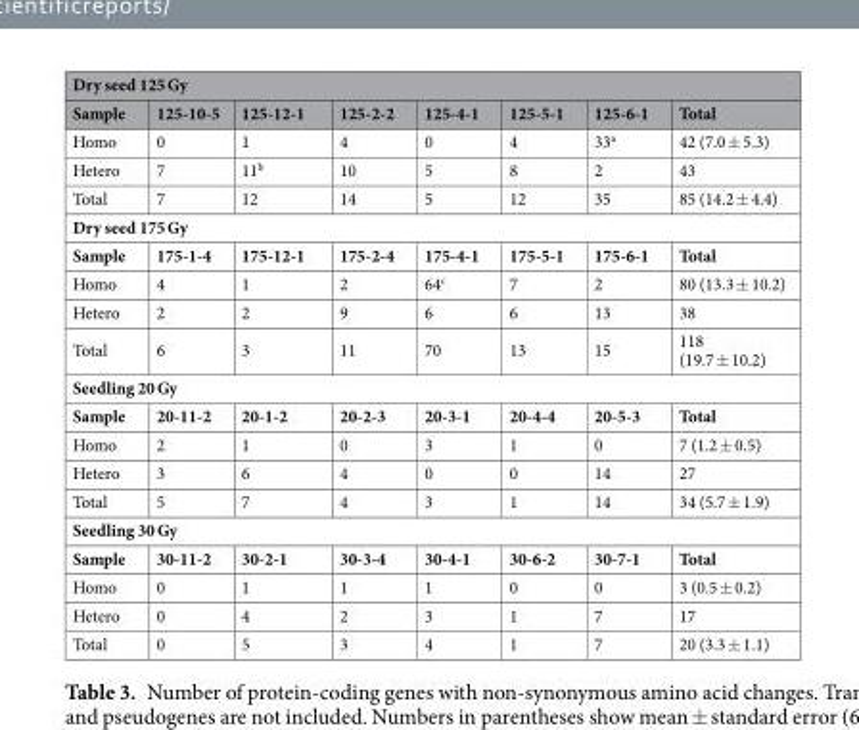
<table><thead><tr><td colspan="8">Dry seed 125 Gy</td></tr><tr><td>Sample</td><td>125-10-5</td><td>125-12-1</td><td>125-2-2</td><td>125-4-1</td><td>125-5-1</td><td>125-6-1</td><td>Total</td></tr></thead><tbody><tr><td>Homo</td><td>0</td><td>1</td><td>4</td><td>0</td><td>4</td><td>33<sup>a</sup></td><td>42 (7.0 ± 5.3)</td></tr><tr><td>Hetero</td><td>7</td><td>11<sup>b</sup></td><td>10</td><td>5</td><td>8</td><td>2</td><td>43</td></tr><tr><td>Total</td><td>7</td><td>12</td><td>14</td><td>5</td><td>12</td><td>35</td><td>85 (14.2 ± 4.4)</td></tr><tr><td colspan="8">Dry seed 175 Gy</td></tr><tr><td>Sample</td><td>175-1-4</td><td>175-12-1</td><td>175-2-4</td><td>175-4-1</td><td>175-5-1</td><td>175-6-1</td><td>Total</td></tr><tr><td>Homo</td><td>4</td><td>1</td><td>2</td><td>64<sup>c</sup></td><td>7</td><td>2</td><td>80 (13.3 ± 10.2)</td></tr><tr><td>Hetero</td><td>2</td><td>2</td><td>9</td><td>6</td><td>6</td><td>13</td><td>38</td></tr><tr><td>Total</td><td>6</td><td>3</td><td>11</td><td>70</td><td>13</td><td>15</td><td>118 (19.7 ± 10.2)</td></tr><tr><td colspan="8">Seedling 20 Gy</td></tr><tr><td>Sample</td><td>20-11-2</td><td>20-1-2</td><td>20-2-3</td><td>20-3-1</td><td>20-4-4</td><td>20-5-3</td><td>Total</td></tr><tr><td>Homo</td><td>2</td><td>1</td><td>0</td><td>3</td><td>1</td><td>0</td><td>7 (1.2 ± 0.5)</td></tr><tr><td>Hetero</td><td>3</td><td>6</td><td>4</td><td>0</td><td>0</td><td>14</td><td>27</td></tr><tr><td>Total</td><td>5</td><td>7</td><td>4</td><td>3</td><td>1</td><td>14</td><td>34 (5.7 ± 1.9)</td></tr><tr><td colspan="8">Seedling 30 Gy</td></tr><tr><td>Sample</td><td>30-11-2</td><td>30-2-1</td><td>30-3-4</td><td>30-4-1</td><td>30-6-2</td><td>30-7-1</td><td>Total</td></tr><tr><td>Homo</td><td>0</td><td>1</td><td>1</td><td>1</td><td>0</td><td>0</td><td>3 (0.5 ± 0.2)</td></tr><tr><td>Hetero</td><td>0</td><td>4</td><td>2</td><td>3</td><td>1</td><td>7</td><td>17</td></tr><tr><td>Total</td><td>0</td><td>5</td><td>3</td><td>4</td><td>1</td><td>7</td><td>20 (3.3 ± 1.1)</td></tr></tbody></table>